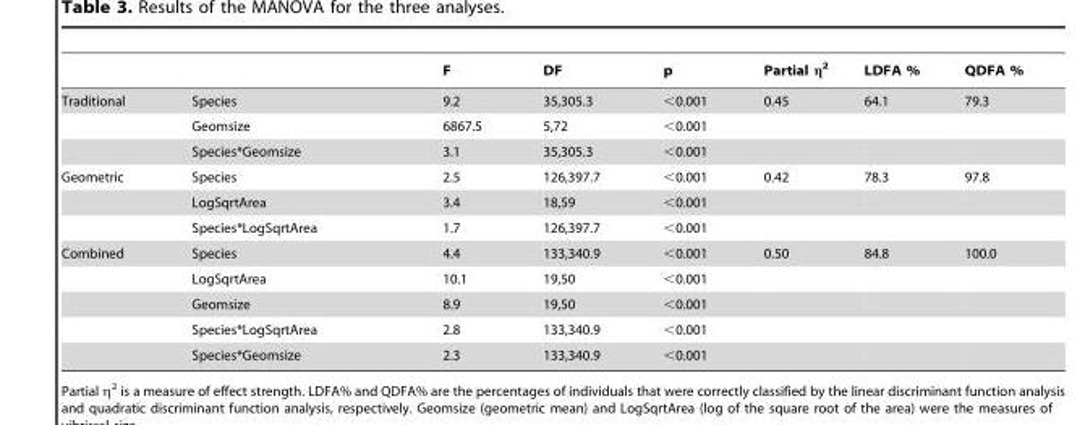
<table><thead><tr><td></td><td></td><td>F</td><td>DF</td><td>p</td><td>Partial η<sup>2</sup></td><td>LDFA %</td><td>QDFA %</td></tr></thead><tbody><tr><td rowspan="3">Traditional</td><td>Species</td><td>9.2</td><td>35,305.3</td><td>&lt;0.001</td><td>0.45</td><td>64.1</td><td>79.3</td></tr><tr><td>Geomsize</td><td>6867.5</td><td>5,72</td><td>&lt;0.001</td><td></td><td></td><td></td></tr><tr><td>Species*Geomsize</td><td>3.1</td><td>35,305.3</td><td>&lt;0.001</td><td></td><td></td><td></td></tr><tr><td rowspan="3">Geometric</td><td>Species</td><td>2.5</td><td>126,397.7</td><td>&lt;0.001</td><td>0.42</td><td>78.3</td><td>97.8</td></tr><tr><td>LogSqrtArea</td><td>3.4</td><td>18,59</td><td>&lt;0.001</td><td></td><td></td><td></td></tr><tr><td>Species*LogSqrtArea</td><td>1.7</td><td>126,397.7</td><td>&lt;0.001</td><td></td><td></td><td></td></tr><tr><td rowspan="5">Combined</td><td>Species</td><td>4.4</td><td>133,340.9</td><td>&lt;0.001</td><td>0.50</td><td>84.8</td><td>100.0</td></tr><tr><td>LogSqrtArea</td><td>10.1</td><td>19,50</td><td>&lt;0.001</td><td></td><td></td><td></td></tr><tr><td>Geomsize</td><td>8.9</td><td>19,50</td><td>&lt;0.001</td><td></td><td></td><td></td></tr><tr><td>Species*LogSqrtArea</td><td>2.8</td><td>133,340.9</td><td>&lt;0.001</td><td></td><td></td><td></td></tr><tr><td>Species*Geomsize</td><td>2.3</td><td>133,340.9</td><td>&lt;0.001</td><td></td><td></td><td></td></tr></tbody></table>